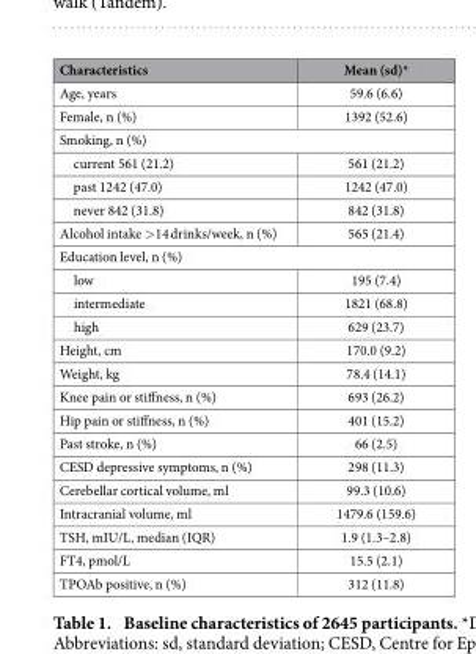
<table><thead><tr><td>Characteristics</td><td>Mean (sd)*</td></tr></thead><tbody><tr><td>Age, years</td><td>59.6 (6.6)</td></tr><tr><td>Female, n (%)</td><td>1392 (52.6)</td></tr><tr><td colspan="2">Smoking, n (%)</td></tr><tr><td>current 561 (21.2)</td><td>561 (21.2)</td></tr><tr><td>past 1242 (47.0)</td><td>1242 (47.0)</td></tr><tr><td>never 842 (31.8)</td><td>842 (31.8)</td></tr><tr><td>Alcohol intake &gt; 14 drinks/week, n (%)</td><td>565 (21.4)</td></tr><tr><td colspan="2">Education level, n (%)</td></tr><tr><td>low</td><td>195 (7.4)</td></tr><tr><td>intermediate</td><td>1821 (68.8)</td></tr><tr><td>high</td><td>629 (23.7)</td></tr><tr><td>Height, cm</td><td>170.0 (9.2)</td></tr><tr><td>Weight, kg</td><td>78.4 (14.1)</td></tr><tr><td>Knee pain or stiffness, n (%)</td><td>693 (26.2)</td></tr><tr><td>Hip pain or stiffness, n (%)</td><td>401 (15.2)</td></tr><tr><td>Past stroke, n (%)</td><td>66 (2.5)</td></tr><tr><td>CESD depressive symptoms, n (%)</td><td>298 (11.3)</td></tr><tr><td>Cerebellar cortical volume, ml</td><td>99.3 (10.6)</td></tr><tr><td>Intracranial volume, ml</td><td>1479.6 (159.6)</td></tr><tr><td>TSH, mIU/L, median (IQR)</td><td>1.9 (1.3–2.8)</td></tr><tr><td>FT4, pmol/L</td><td>15.5 (2.1)</td></tr><tr><td>TPOAb positive, n (%)</td><td>312 (11.8)</td></tr></tbody></table>